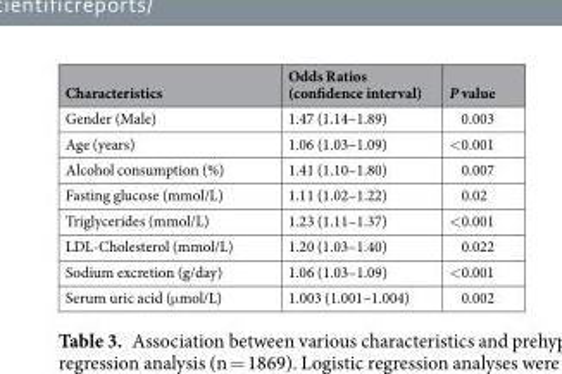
<table><thead><tr><td>Characteristics</td><td>Odds Ratios (confidence interval)</td><td>P value</td></tr></thead><tbody><tr><td>Gender (Male)</td><td>1.47 (1.14–1.89)</td><td>0.003</td></tr><tr><td>Age (years)</td><td>1.06 (1.03–1.09)</td><td>&lt;0.001</td></tr><tr><td>Alcohol consumption (%)</td><td>1.41 (1.10–1.80)</td><td>0.007</td></tr><tr><td>Fasting glucose (mmol/L)</td><td>1.11 (1.02–1.22)</td><td>0.02</td></tr><tr><td>Triglycerides (mmol/L)</td><td>1.23 (1.11–1.37)</td><td>&lt;0.001</td></tr><tr><td>LDL-Cholesterol (mmol/L)</td><td>1.20 (1.03–1.40)</td><td>0.022</td></tr><tr><td>Sodium excretion (g/day)</td><td>1.06 (1.03–1.09)</td><td>&lt;0.001</td></tr><tr><td>Serum uric acid (μmol/L)</td><td>1.003 (1.001–1.004)</td><td>0.002</td></tr></tbody></table>